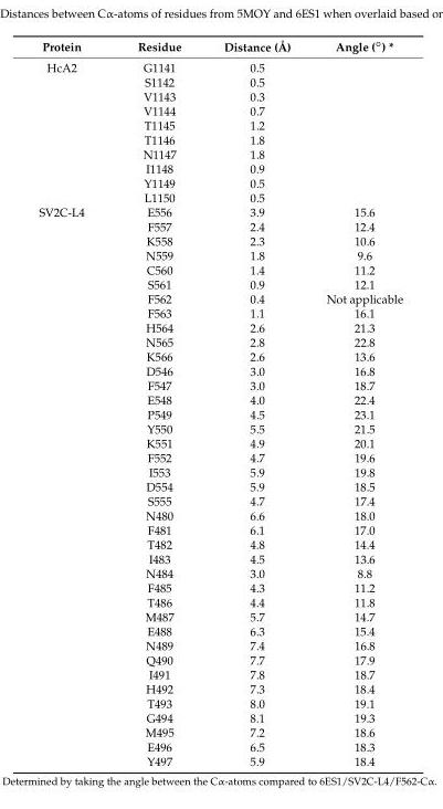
<table><thead><tr><td>Protein</td><td>Residue</td><td>Distance (Å)</td><td>Angle (◦) *</td></tr></thead><tbody><tr><td rowspan="10">HcA2</td><td>G1141</td><td>0.5</td><td></td></tr><tr><td>S1142</td><td>0.5</td><td></td></tr><tr><td>V1143</td><td>0.3</td><td></td></tr><tr><td>V1144</td><td>0.7</td><td></td></tr><tr><td>T1145</td><td>1.2</td><td></td></tr><tr><td>T1146</td><td>1.8</td><td></td></tr><tr><td>N1147</td><td>1.8</td><td></td></tr><tr><td>I1148</td><td>0.9</td><td></td></tr><tr><td>Y1149</td><td>0.5</td><td></td></tr><tr><td>L1150</td><td>0.5</td><td></td></tr><tr><td rowspan="39">SV2C-L4</td><td>E556</td><td>3.9</td><td>15.6</td></tr><tr><td>F557</td><td>2.4</td><td>12.4</td></tr><tr><td>K558</td><td>2.3</td><td>10.6</td></tr><tr><td>N559</td><td>1.8</td><td>9.6</td></tr><tr><td>C560</td><td>1.4</td><td>11.2</td></tr><tr><td>S561</td><td>0.9</td><td>12.1</td></tr><tr><td>F562</td><td>0.4</td><td>Not applicable</td></tr><tr><td>F563</td><td>1.1</td><td>16.1</td></tr><tr><td>H564</td><td>2.6</td><td>21.3</td></tr><tr><td>N565</td><td>2.8</td><td>22.8</td></tr><tr><td>K566</td><td>2.6</td><td>13.6</td></tr><tr><td>D546</td><td>3.0</td><td>16.8</td></tr><tr><td>F547</td><td>3.0</td><td>18.7</td></tr><tr><td>E548</td><td>4.0</td><td>22.4</td></tr><tr><td>P549</td><td>4.5</td><td>23.1</td></tr><tr><td>Y550</td><td>5.5</td><td>21.5</td></tr><tr><td>K551</td><td>4.9</td><td>20.1</td></tr><tr><td>F552</td><td>4.7</td><td>19.6</td></tr><tr><td>I553</td><td>5.9</td><td>19.8</td></tr><tr><td>D554</td><td>5.9</td><td>18.5</td></tr><tr><td>S555</td><td>4.7</td><td>17.4</td></tr><tr><td>N480</td><td>6.6</td><td>18.0</td></tr><tr><td>F481</td><td>6.1</td><td>17.0</td></tr><tr><td>T482</td><td>4.8</td><td>14.4</td></tr><tr><td>I483</td><td>4.5</td><td>13.6</td></tr><tr><td>N484</td><td>3.0</td><td>8.8</td></tr><tr><td>F485</td><td>4.3</td><td>11.2</td></tr><tr><td>T486</td><td>4.4</td><td>11.8</td></tr><tr><td>M487</td><td>5.7</td><td>14.7</td></tr><tr><td>E488</td><td>6.3</td><td>15.4</td></tr><tr><td>N489</td><td>7.4</td><td>16.8</td></tr><tr><td>Q490</td><td>7.7</td><td>17.9</td></tr><tr><td>I491</td><td>7.8</td><td>18.7</td></tr><tr><td>H492</td><td>7.3</td><td>18.4</td></tr><tr><td>T493</td><td>8.0</td><td>19.1</td></tr><tr><td>G494</td><td>8.1</td><td>19.3</td></tr><tr><td>M495</td><td>7.2</td><td>18.6</td></tr><tr><td>E496</td><td>6.5</td><td>18.3</td></tr><tr><td>Y497</td><td>5.9</td><td>18.4</td></tr></tbody></table>